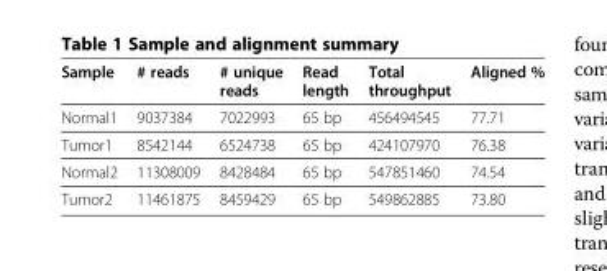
<table><thead><tr><td>Sample</td><td># reads</td><td># unique reads</td><td>Read length</td><td>Total throughput</td><td>Aligned %</td></tr></thead><tbody><tr><td>Normal1</td><td>9037384</td><td>7022993</td><td>65 bp</td><td>456494545</td><td>77.71</td></tr><tr><td>Tumor1</td><td>8542144</td><td>6524738</td><td>65 bp</td><td>424107970</td><td>76.38</td></tr><tr><td>Normal2</td><td>11308009</td><td>8428484</td><td>65 bp</td><td>547851460</td><td>74.54</td></tr><tr><td>Tumor2</td><td>11461875</td><td>8459429</td><td>65 bp</td><td>549862885</td><td>73.80</td></tr></tbody></table>